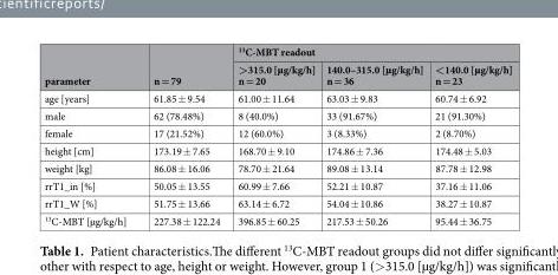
<table><thead><tr><td rowspan="2">parameter</td><td rowspan="2">n = 79</td><td colspan="3"><sup>13</sup>C-MBT readout</td></tr><tr><td>&gt;315.0 [µg/kg/h] n = 20</td><td>140.0–315.0 [µg/kg/h] n = 36</td><td>&lt;140.0 [µg/kg/h] n = 23</td></tr></thead><tbody><tr><td>age [years]</td><td>61.85 ± 9.54</td><td>61.00 ± 11.64</td><td>63.03 ± 9.83</td><td>60.74 ± 6.92</td></tr><tr><td>male</td><td>62 (78.48%)</td><td>8 (40.0%)</td><td>33 (91.67%)</td><td>21 (91.30%)</td></tr><tr><td>female</td><td>17 (21.52%)</td><td>12 (60.0%)</td><td>3 (8.33%)</td><td>2 (8.70%)</td></tr><tr><td>height [cm]</td><td>173.19 ± 7.65</td><td>168.70 ± 9.10</td><td>174.86 ± 7.36</td><td>174.48 ± 5.03</td></tr><tr><td>weight [kg]</td><td>86.08 ± 16.06</td><td>78.70 ± 21.64</td><td>89.08 ± 13.14</td><td>87.78 ± 12.98</td></tr><tr><td>rrT1_in [%]</td><td>50.05 ± 13.55</td><td>60.99 ± 7.66</td><td>52.21 ± 10.87</td><td>37.16 ± 11.06</td></tr><tr><td>rrT1_W [%]</td><td>51.75 ± 13.66</td><td>63.14 ± 6.72</td><td>54.04 ± 10.86</td><td>38.27 ± 10.87</td></tr><tr><td><sup>13</sup>C-MBT [µg/kg/h]</td><td>227.38 ± 122.24</td><td>396.85 ± 60.25</td><td>217.53 ± 50.26</td><td>95.44 ± 36.75</td></tr></tbody></table>